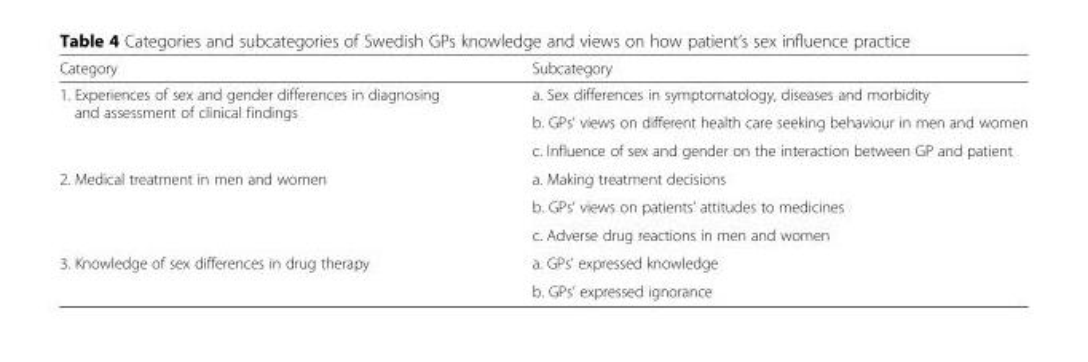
<table><thead><tr><td>Category</td><td>Subcategory</td></tr></thead><tbody><tr><td rowspan="3">1. Experiences of sex and gender differences in diagnosing and assessment of clinical findings</td><td>a. Sex differences in symptomatology, diseases and morbidity</td></tr><tr><td>b. GPs’ views on different health care seeking behaviour in men and women</td></tr><tr><td>c. Influence of sex and gender on the interaction between GP and patient</td></tr><tr><td rowspan="3">2. Medical treatment in men and women</td><td>a. Making treatment decisions</td></tr><tr><td>b. GPs’ views on patients’ attitudes to medicines</td></tr><tr><td>c. Adverse drug reactions in men and women</td></tr><tr><td rowspan="2">3. Knowledge of sex differences in drug therapy</td><td>a. GPs’ expressed knowledge</td></tr><tr><td>b. GPs’ expressed ignorance</td></tr></tbody></table>